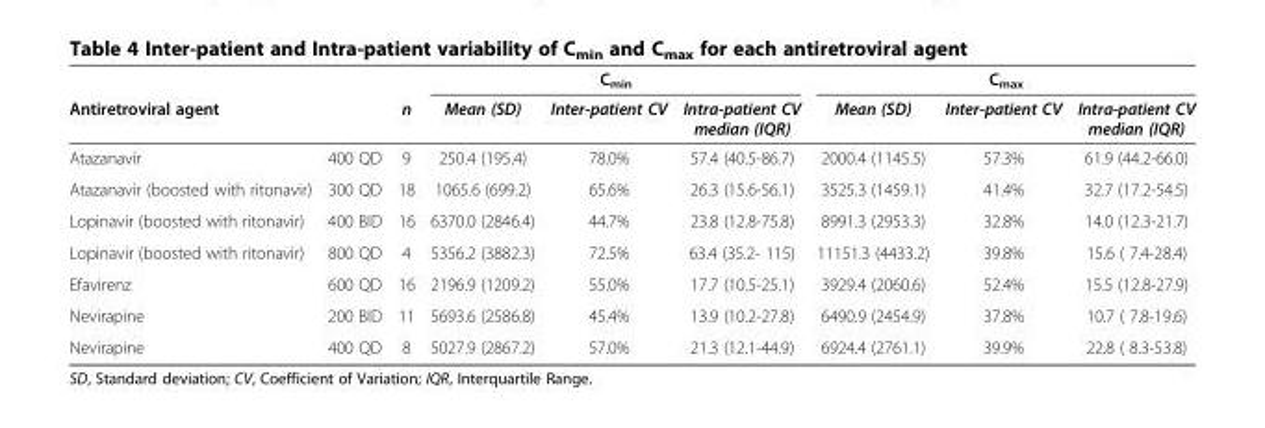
<table><thead><tr><td rowspan="2">Antiretroviral agent</td><td rowspan="2"></td><td rowspan="2">n</td><td colspan="3">C<sub>min</sub></td><td colspan="3">C<sub>max</sub></td></tr><tr><td>Mean (SD)</td><td>Inter-patient CV</td><td>Intra-patient CV median (IQR)</td><td>Mean (SD)</td><td>Inter-patient CV</td><td>Intra-patient CV median (IQR)</td></tr></thead><tbody><tr><td>Atazanavir</td><td>400 QD</td><td>9</td><td>250.4 (195.4)</td><td>78.0%</td><td>57.4 (40.5-86.7)</td><td>2000.4 (1145.5)</td><td>57.3%</td><td>61.9 (44.2-66.0)</td></tr><tr><td>Atazanavir (boosted with ritonavir)</td><td>300 QD</td><td>18</td><td>1065.6 (699.2)</td><td>65.6%</td><td>26.3 (15.6-56.1)</td><td>3525.3 (1459.1)</td><td>41.4%</td><td>32.7 (17.2-54.5)</td></tr><tr><td>Lopinavir (boosted with ritonavir)</td><td>400 BID</td><td>16</td><td>6370.0 (2846.4)</td><td>44.7%</td><td>23.8 (12.8-75.8)</td><td>8991.3 (2953.3)</td><td>32.8%</td><td>14.0 (12.3-21.7)</td></tr><tr><td>Lopinavir (boosted with ritonavir)</td><td>800 QD</td><td>4</td><td>5356.2 (3882.3)</td><td>72.5%</td><td>63.4 (35.2- 115)</td><td>11151.3 (4433.2)</td><td>39.8%</td><td>15.6 ( 7.4-28.4)</td></tr><tr><td>Efavirenz</td><td>600 QD</td><td>16</td><td>2196.9 (1209.2)</td><td>55.0%</td><td>17.7 (10.5-25.1)</td><td>3929.4 (2060.6)</td><td>52.4%</td><td>15.5 (12.8-27.9)</td></tr><tr><td>Nevirapine</td><td>200 BID</td><td>11</td><td>5693.6 (2586.8)</td><td>45.4%</td><td>13.9 (10.2-27.8)</td><td>6490.9 (2454.9)</td><td>37.8%</td><td>10.7 ( 7.8-19.6)</td></tr><tr><td>Nevirapine</td><td>400 QD</td><td>8</td><td>5027.9 (2867.2)</td><td>57.0%</td><td>21.3 (12.1-44.9)</td><td>6924.4 (2761.1)</td><td>39.9%</td><td>22.8 ( 8.3-53.8)</td></tr></tbody></table>